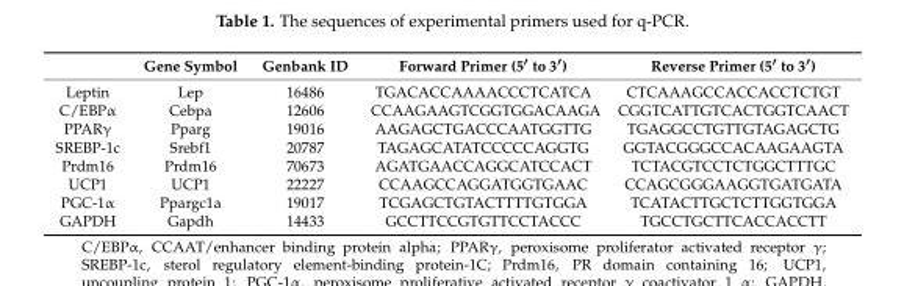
<table><thead><tr><td></td><td>Gene Symbol</td><td>Genbank ID</td><td>Forward Primer (5′ to 3′)</td><td>Reverse Primer (5′ to 3′)</td></tr></thead><tbody><tr><td>Leptin</td><td>Lep</td><td>16486</td><td>TGACACCAAAACCCTCATCA</td><td>CTCAAAGCCACCACCTCTGT</td></tr><tr><td>C/EBPα</td><td>Cebpa</td><td>12606</td><td>CCAAGAAGTCGGTGGACAAGA</td><td>CGGTCATTGTCACTGGTCAACT</td></tr><tr><td>PPARγ</td><td>Pparg</td><td>19016</td><td>AAGAGCTGACCCAATGGTTG</td><td>TGAGGCCTGTTGTAGAGCTG</td></tr><tr><td>SREBP-1c</td><td>Srebf1</td><td>20787</td><td>TAGAGCATATCCCCCAGGTG</td><td>GGTACGGGCCACAAGAAGTA</td></tr><tr><td>Prdm16</td><td>Prdm16</td><td>70673</td><td>AGATGAACCAGGCATCCACT</td><td>TCTACGTCCTCTGGCTTTGC</td></tr><tr><td>UCP1</td><td>UCP1</td><td>22227</td><td>CCAAGCCAGGATGGTGAAC</td><td>CCAGCGGGAAGGTGATGATA</td></tr><tr><td>PGC-1α</td><td>Ppargc1a</td><td>19017</td><td>TCGAGCTGTACTTTTGTGGA</td><td>TCATACTTGCTCTTGGTGGA</td></tr><tr><td>GAPDH</td><td>Gapdh</td><td>14433</td><td>GCCTTCCGTGTTCCTACCC</td><td>TGCCTGCTTCACCACCTT</td></tr></tbody></table>